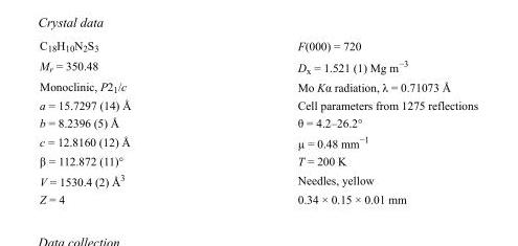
<table><tbody><tr><td>C<sub>18</sub>H<sub>10</sub>N<sub>2</sub>S<sub>3</sub></td><td>F(000) = 720</td></tr><tr><td>M<sub>r</sub> = 350.48</td><td>D<sub>x</sub> = 1.521 (1) Mg m<sup>−3</sup></td></tr><tr><td>Monoclinic, P2<sub>1</sub>/c</td><td>Mo Kα radiation, λ = 0.71073 Å</td></tr><tr><td>a = 15.7297 (14) Å</td><td>Cell parameters from 1275 reflections</td></tr><tr><td>b = 8.2396 (5) Å</td><td>θ = 4.2–26.2°</td></tr><tr><td>c = 12.8160 (12) Å</td><td>µ = 0.48 mm<sup>−1</sup></td></tr><tr><td>β = 112.872 (11)°</td><td>T = 200 K</td></tr><tr><td>V = 1530.4 (2) Å<sup>3</sup></td><td>Needles, yellow</td></tr><tr><td>Z = 4</td><td>0.34 × 0.15 × 0.01 mm</td></tr></tbody></table>